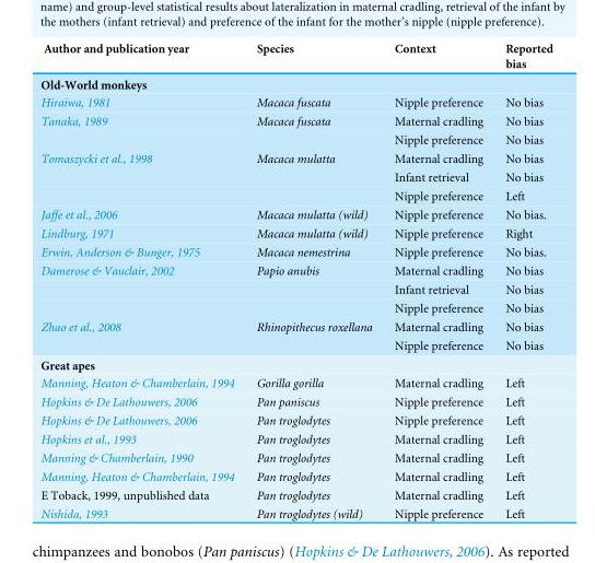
<table><thead><tr><td>Author and publication year</td><td>Species</td><td>Context</td><td>Reported bias</td></tr></thead><tbody><tr><td colspan="4">Old-World monkeys</td></tr><tr><td>Hiraiwa, 1981</td><td>Macaca fuscata</td><td>Nipple preference</td><td>No bias</td></tr><tr><td rowspan="2">Tanaka, 1989</td><td>Macaca fuscata</td><td>Maternal cradling</td><td>No bias</td></tr><tr><td></td><td>Nipple preference</td><td>No bias</td></tr><tr><td rowspan="3">Tomaszycki et al., 1998</td><td>Macaca mulatta</td><td>Maternal cradling</td><td>No bias</td></tr><tr><td></td><td>Infant retrieval</td><td>No bias</td></tr><tr><td></td><td>Nipple preference</td><td>Left</td></tr><tr><td>Jaffe et al., 2006</td><td>Macaca mulatta (wild)</td><td>Nipple preference</td><td>No bias.</td></tr><tr><td>Lindburg, 1971</td><td>Macaca mulatta (wild)</td><td>Nipple preference</td><td>Right</td></tr><tr><td>Erwin, Anderson &amp; Bunger, 1975</td><td>Macaca nemestrina</td><td>Nipple preference</td><td>No bias.</td></tr><tr><td rowspan="3">Damerose &amp; Vauclair, 2002</td><td>Papio anubis</td><td>Maternal cradling</td><td>No bias</td></tr><tr><td></td><td>Infant retrieval</td><td>No bias</td></tr><tr><td></td><td>Nipple preference</td><td>No bias</td></tr><tr><td rowspan="2">Zhao et al., 2008</td><td>Rhinopithecus roxellana</td><td>Maternal cradling</td><td>No bias</td></tr><tr><td></td><td>Nipple preference</td><td>No bias</td></tr><tr><td colspan="4">Great apes</td></tr><tr><td>Manning, Heaton &amp; Chamberlain, 1994</td><td>Gorilla gorilla</td><td>Maternal cradling</td><td>Left</td></tr><tr><td>Hopkins &amp; De Lathouwers, 2006</td><td>Pan paniscus</td><td>Nipple preference</td><td>Left</td></tr><tr><td>Hopkins &amp; De Lathouwers, 2006</td><td>Pan troglodytes</td><td>Nipple preference</td><td>Left</td></tr><tr><td>Hopkins et al., 1993</td><td>Pan troglodytes</td><td>Maternal cradling</td><td>Left</td></tr><tr><td>Manning &amp; Chamberlain, 1990</td><td>Pan troglodytes</td><td>Maternal cradling</td><td>Left</td></tr><tr><td>Manning, Heaton &amp; Chamberlain, 1994</td><td>Pan troglodytes</td><td>Maternal cradling</td><td>Left</td></tr><tr><td>E Toback, 1999, unpublished data</td><td>Pan troglodytes</td><td>Maternal cradling</td><td>Left</td></tr><tr><td>Nishida, 1993</td><td>Pan troglodytes (wild)</td><td>Nipple preference</td><td>Left</td></tr></tbody></table>